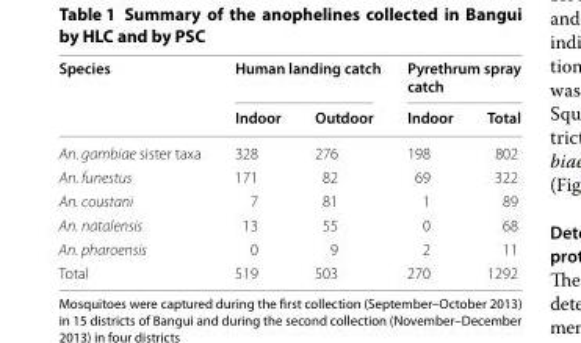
<table><thead><tr><td rowspan="2">Species</td><td colspan="2">Human landing catch</td><td colspan="2">Pyrethrum spray catch</td></tr><tr><td>Indoor</td><td>Outdoor</td><td>Indoor</td><td>Total</td></tr></thead><tbody><tr><td>An. gambiae sister taxa</td><td>328</td><td>276</td><td>198</td><td>802</td></tr><tr><td>An. funestus</td><td>171</td><td>82</td><td>69</td><td>322</td></tr><tr><td>An. coustani</td><td>7</td><td>81</td><td>1</td><td>89</td></tr><tr><td>An. natalensis</td><td>13</td><td>55</td><td>0</td><td>68</td></tr><tr><td>An. pharoensis</td><td>0</td><td>9</td><td>2</td><td>11</td></tr><tr><td>Total</td><td>519</td><td>503</td><td>270</td><td>1292</td></tr></tbody></table>